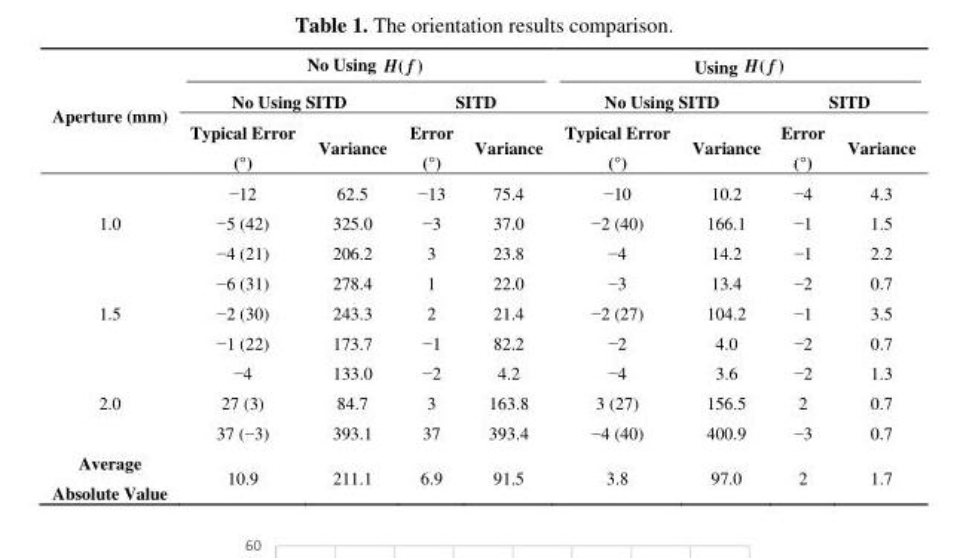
<table><thead><tr><td rowspan="3">Aperture (mm)</td><td colspan="4">No Using ( ) H f</td><td colspan="4">Using ( ) H f</td></tr><tr><td colspan="2">No Using SITD</td><td colspan="2">SITD</td><td colspan="2">No Using SITD</td><td colspan="2">SITD</td></tr><tr><td>Typical Error (°)</td><td>Variance</td><td>Error (°)</td><td>Variance</td><td>Typical Error (°)</td><td>Variance</td><td>Error (°)</td><td>Variance</td></tr></thead><tbody><tr><td rowspan="3">1.0</td><td>−12</td><td>62.5</td><td>−13</td><td>75.4</td><td>−10</td><td>10.2</td><td>−4</td><td>4.3</td></tr><tr><td>−5 (42)</td><td>325.0</td><td>−3</td><td>37.0</td><td>−2 (40)</td><td>166.1</td><td>−1</td><td>1.5</td></tr><tr><td>−4 (21)</td><td>206.2</td><td>3</td><td>23.8</td><td>−4</td><td>14.2</td><td>−1</td><td>2.2</td></tr><tr><td rowspan="3">1.5</td><td>−6 (31)</td><td>278.4</td><td>1</td><td>22.0</td><td>−3</td><td>13.4</td><td>−2</td><td>0.7</td></tr><tr><td>−2 (30)</td><td>243.3</td><td>2</td><td>21.4</td><td>−2 (27)</td><td>104.2</td><td>−1</td><td>3.5</td></tr><tr><td>−1 (22)</td><td>173.7</td><td>−1</td><td>82.2</td><td>−2</td><td>4.0</td><td>−2</td><td>0.7</td></tr><tr><td rowspan="3">2.0</td><td>−4</td><td>133.0</td><td>−2</td><td>4.2</td><td>−4</td><td>3.6</td><td>−2</td><td>1.3</td></tr><tr><td>27 (3)</td><td>84.7</td><td>3</td><td>163.8</td><td>3 (27)</td><td>156.5</td><td>2</td><td>0.7</td></tr><tr><td>37 (−3)</td><td>393.1</td><td>37</td><td>393.4</td><td>−4 (40)</td><td>400.9</td><td>−3</td><td>0.7</td></tr><tr><td>Average Absolute Value</td><td>10.9</td><td>211.1</td><td>6.9</td><td>91.5</td><td>3.8</td><td>97.0</td><td>2</td><td>1.7</td></tr></tbody></table>